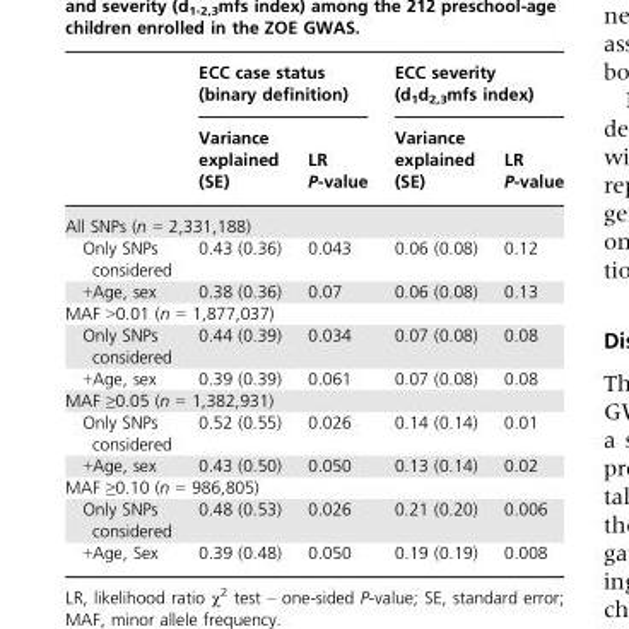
<table><thead><tr><td rowspan="2"></td><td colspan="2">ECC case status (binary definition)</td><td colspan="2">ECC severity (d<sub>1</sub>d<sub>2,3</sub>mfs index)</td></tr><tr><td>Variance explained (SE)</td><td>LR P-value</td><td>Variance explained (SE)</td><td>LR P-value</td></tr></thead><tbody><tr><td colspan="5">All SNPs (n = 2,331,188)</td></tr><tr><td>Only SNPs considered</td><td>0.43 (0.36)</td><td>0.043</td><td>0.06 (0.08)</td><td>0.12</td></tr><tr><td>+Age, sex</td><td>0.38 (0.36)</td><td>0.07</td><td>0.06 (0.08)</td><td>0.13</td></tr><tr><td colspan="5">MAF &gt;0.01 (n = 1,877,037)</td></tr><tr><td>Only SNPs considered</td><td>0.44 (0.39)</td><td>0.034</td><td>0.07 (0.08)</td><td>0.08</td></tr><tr><td>+Age, sex</td><td>0.39 (0.39)</td><td>0.061</td><td>0.07 (0.08)</td><td>0.08</td></tr><tr><td colspan="5">MAF ≥0.05 (n = 1,382,931)</td></tr><tr><td>Only SNPs considered</td><td>0.52 (0.55)</td><td>0.026</td><td>0.14 (0.14)</td><td>0.01</td></tr><tr><td>+Age, sex</td><td>0.43 (0.50)</td><td>0.050</td><td>0.13 (0.14)</td><td>0.02</td></tr><tr><td colspan="5">MAF ≥0.10 (n = 986,805)</td></tr><tr><td>Only SNPs considered</td><td>0.48 (0.53)</td><td>0.026</td><td>0.21 (0.20)</td><td>0.006</td></tr><tr><td>+Age, Sex</td><td>0.39 (0.48)</td><td>0.050</td><td>0.19 (0.19)</td><td>0.008</td></tr></tbody></table>